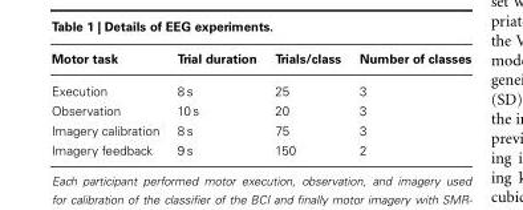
<table><thead><tr><td>Motor task</td><td>Trial duration</td><td>Trials/class</td><td>Number of classes</td></tr></thead><tbody><tr><td>Execution</td><td>8 s</td><td>25</td><td>3</td></tr><tr><td>Observation</td><td>10 s</td><td>20</td><td>3</td></tr><tr><td>Imagery calibration</td><td>8 s</td><td>75</td><td>3</td></tr><tr><td>Imagery feedback</td><td>9 s</td><td>150</td><td>2</td></tr></tbody></table>